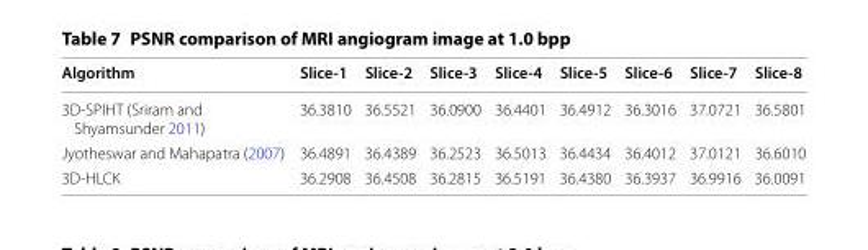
<table><thead><tr><td>Algorithm</td><td>Slice‑1</td><td>Slice‑2</td><td>Slice‑3</td><td>Slice‑4</td><td>Slice‑5</td><td>Slice‑6</td><td>Slice‑7</td><td>Slice‑8</td></tr></thead><tbody><tr><td>3D-SPIHT (Sriram and Shyamsunder 2011)</td><td>36.3810</td><td>36.5521</td><td>36.0900</td><td>36.4401</td><td>36.4912</td><td>36.3016</td><td>37.0721</td><td>36.5801</td></tr><tr><td>Jyotheswar and Mahapatra (2007)</td><td>36.4891</td><td>36.4389</td><td>36.2523</td><td>36.5013</td><td>36.4434</td><td>36.4012</td><td>37.0121</td><td>36.6010</td></tr><tr><td>3D-HLCK</td><td>36.2908</td><td>36.4508</td><td>36.2815</td><td>36.5191</td><td>36.4380</td><td>36.3937</td><td>36.9916</td><td>36.0091</td></tr></tbody></table>